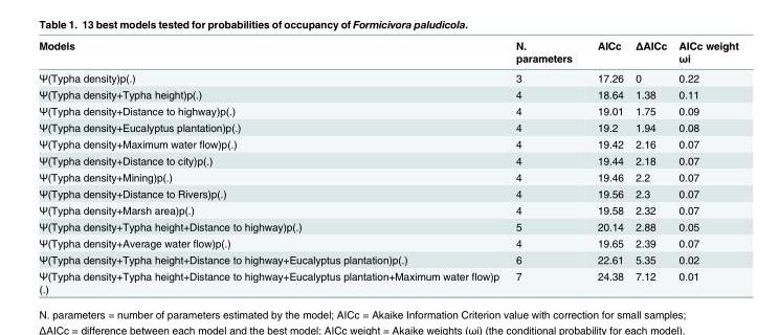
<table><thead><tr><td>Models</td><td>N. parameters</td><td>AICc</td><td>ΔAICc</td><td>AICc weight ωi</td></tr></thead><tbody><tr><td>Ψ(Typha density)p(.)</td><td>3</td><td>17.26</td><td>0</td><td>0.22</td></tr><tr><td>Ψ(Typha density+Typha height)p(.)</td><td>4</td><td>18.64</td><td>1.38</td><td>0.11</td></tr><tr><td>Ψ(Typha density+Distance to highway)p(.)</td><td>4</td><td>19.01</td><td>1.75</td><td>0.09</td></tr><tr><td>Ψ(Typha density+Eucalyptus plantation)p(.)</td><td>4</td><td>19.2</td><td>1.94</td><td>0.08</td></tr><tr><td>Ψ(Typha density+Maximum water flow)p(.)</td><td>4</td><td>19.42</td><td>2.16</td><td>0.07</td></tr><tr><td>Ψ(Typha density+Distance to city)p(.)</td><td>4</td><td>19.44</td><td>2.18</td><td>0.07</td></tr><tr><td>Ψ(Typha density+Mining)p(.)</td><td>4</td><td>19.46</td><td>2.2</td><td>0.07</td></tr><tr><td>Ψ(Typha density+Distance to Rivers)p(.)</td><td>4</td><td>19.56</td><td>2.3</td><td>0.07</td></tr><tr><td>Ψ(Typha density+Marsh area)p(.)</td><td>4</td><td>19.58</td><td>2.32</td><td>0.07</td></tr><tr><td>Ψ(Typha density+Typha height+Distance to highway)p(.)</td><td>5</td><td>20.14</td><td>2.88</td><td>0.05</td></tr><tr><td>Ψ(Typha density+Average water flow)p(.)</td><td>4</td><td>19.65</td><td>2.39</td><td>0.07</td></tr><tr><td>Ψ(Typha density+Typha height+Distance to highway+Eucalyptus plantation)p(.)</td><td>6</td><td>22.61</td><td>5.35</td><td>0.02</td></tr><tr><td>Ψ(Typha density+Typha height+Distance to highway+Eucalyptus plantation+Maximum water flow)p (.)</td><td>7</td><td>24.38</td><td>7.12</td><td>0.01</td></tr></tbody></table>